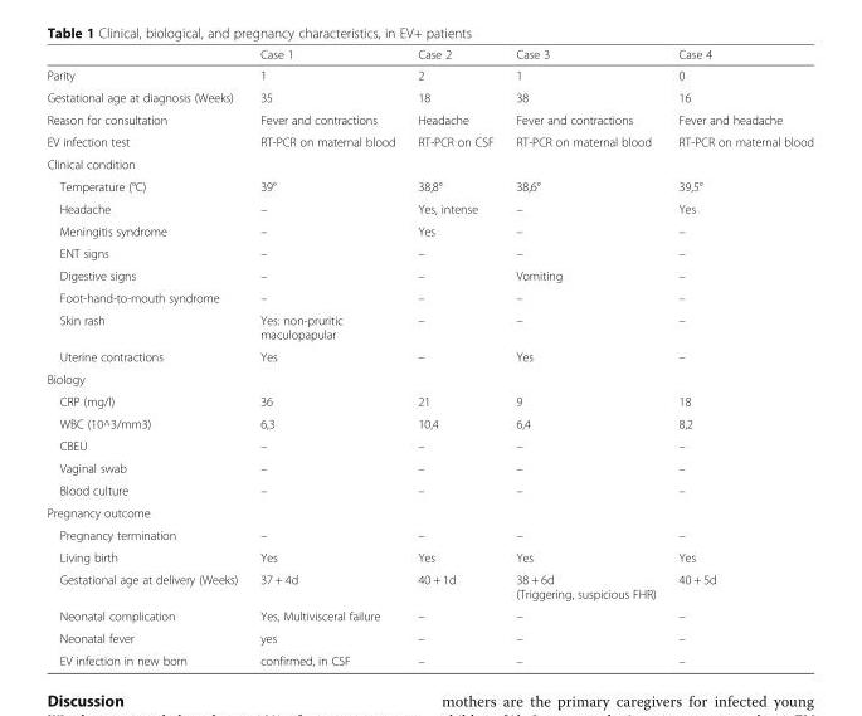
<table><thead><tr><td></td><td>Case 1</td><td>Case 2</td><td>Case 3</td><td>Case 4</td></tr></thead><tbody><tr><td>Parity</td><td>1</td><td>2</td><td>1</td><td>0</td></tr><tr><td>Gestational age at diagnosis (Weeks)</td><td>35</td><td>18</td><td>38</td><td>16</td></tr><tr><td>Reason for consultation</td><td>Fever and contractions</td><td>Headache</td><td>Fever and contractions</td><td>Fever and headache</td></tr><tr><td>EV infection test</td><td>RT-PCR on maternal blood</td><td>RT-PCR on CSF</td><td>RT-PCR on maternal blood</td><td>RT-PCR on maternal blood</td></tr><tr><td colspan="5">Clinical condition</td></tr><tr><td>Temperature (°C)</td><td>39°</td><td>38,8°</td><td>38,6°</td><td>39,5°</td></tr><tr><td>Headache</td><td>–</td><td>Yes, intense</td><td>–</td><td>Yes</td></tr><tr><td>Meningitis syndrome</td><td>–</td><td>Yes</td><td>–</td><td>–</td></tr><tr><td>ENT signs</td><td>–</td><td>–</td><td>–</td><td>–</td></tr><tr><td>Digestive signs</td><td>–</td><td>–</td><td>Vomiting</td><td>–</td></tr><tr><td>Foot-hand-to-mouth syndrome</td><td>–</td><td>–</td><td>–</td><td>–</td></tr><tr><td>Skin rash</td><td>Yes: non-pruritic maculopapular</td><td>–</td><td>–</td><td>–</td></tr><tr><td>Uterine contractions</td><td>Yes</td><td>–</td><td>Yes</td><td>–</td></tr><tr><td colspan="5">Biology</td></tr><tr><td>CRP (mg/l)</td><td>36</td><td>21</td><td>9</td><td>18</td></tr><tr><td>WBC (10^3/mm3)</td><td>6,3</td><td>10,4</td><td>6,4</td><td>8,2</td></tr><tr><td>CBEU</td><td>–</td><td>–</td><td>–</td><td>–</td></tr><tr><td>Vaginal swab</td><td>–</td><td>–</td><td>–</td><td>–</td></tr><tr><td>Blood culture</td><td>–</td><td>–</td><td>–</td><td>–</td></tr><tr><td colspan="5">Pregnancy outcome</td></tr><tr><td>Pregnancy termination</td><td>–</td><td>–</td><td>–</td><td>–</td></tr><tr><td>Living birth</td><td>Yes</td><td>Yes</td><td>Yes</td><td>Yes</td></tr><tr><td>Gestational age at delivery (Weeks)</td><td>37 + 4d</td><td>40 + 1d</td><td>38 + 6d (Triggering, suspicious FHR)</td><td>40 + 5d</td></tr><tr><td>Neonatal complication</td><td>Yes, Multivisceral failure</td><td>–</td><td>–</td><td>–</td></tr><tr><td>Neonatal fever</td><td>yes</td><td>–</td><td>–</td><td>–</td></tr><tr><td>EV infection in new born</td><td>confirmed, in CSF</td><td>–</td><td>–</td><td>–</td></tr></tbody></table>